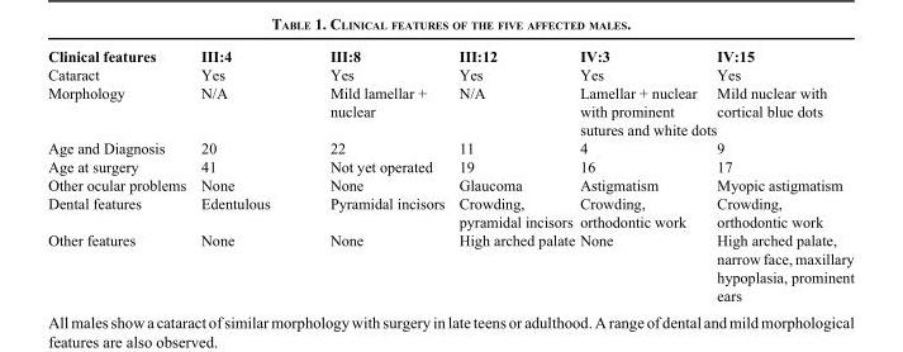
<table><tbody><tr><td>Clinical features</td><td>III:4</td><td>III:8</td><td>III:12</td><td>IV:3</td><td>IV:15</td></tr><tr><td>Cataract</td><td>Yes</td><td>Yes</td><td>Yes</td><td>Yes</td><td>Yes</td></tr><tr><td>Morphology</td><td>N/A</td><td>Mild lamellar + nuclear</td><td>N/A</td><td>Lamellar + nuclear with prominent sutures and white dots</td><td>Mild nuclear with cortical blue dots</td></tr><tr><td>Age and Diagnosis</td><td>20</td><td>22</td><td>11</td><td>4</td><td>9</td></tr><tr><td>Age at surgery</td><td>41</td><td>Not yet operated</td><td>19</td><td>16</td><td>17</td></tr><tr><td>Other ocular problems</td><td>None</td><td>None</td><td>Glaucoma</td><td>Astigmatism</td><td>Myopic astigmatism</td></tr><tr><td>Dental features</td><td>Edentulous</td><td>Pyramidal incisors</td><td>Crowding, pyramidal incisors</td><td>Crowding, orthodontic work</td><td>Crowding, orthodontic work</td></tr><tr><td>Other features</td><td>None</td><td>None</td><td>High arched palate</td><td>None</td><td>High arched palate, narrow face, maxillary hypoplasia, prominent ears</td></tr></tbody></table>